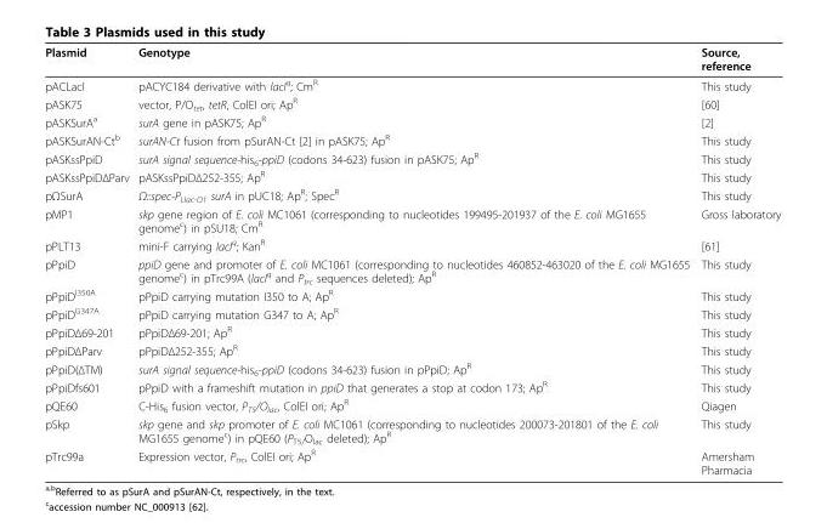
<table><thead><tr><td>Plasmid</td><td>Genotype</td><td>Source, reference</td></tr></thead><tbody><tr><td>pACLacI</td><td>pACYC184 derivative with lacI<sup>q</sup>; Cm<sup>R</sup></td><td>This study</td></tr><tr><td>pASK75</td><td>vector, P/O<sub>tet</sub>, tetR, ColEI ori; Ap<sup>R</sup></td><td>[60]</td></tr><tr><td>pASKSurA<sup>a</sup></td><td>surA gene in pASK75; Ap<sup>R</sup></td><td>[2]</td></tr><tr><td>pASKSurAN-Ct<sup>b</sup></td><td>surAN-Ct fusion from pSurAN-Ct [2] in pASK75; Ap<sup>R</sup></td><td>This study</td></tr><tr><td>pASKssPpiD</td><td>surA signal sequence-his<sub>6</sub>-ppiD (codons 34-623) fusion in pASK75; Ap<sup>R</sup></td><td>This study</td></tr><tr><td>pASKssPpiDΔParv</td><td>pASKssPpiDΔ252-355; Ap<sup>R</sup></td><td>This study</td></tr><tr><td>pΩSurA</td><td>Ω::spec-P<sub>Llac-O1</sub> surA in pUC18; Ap<sup>R</sup>; Spec<sup>R</sup></td><td>This study</td></tr><tr><td>pMP1</td><td>skp gene region of E. coli MC1061 (corresponding to nucleotides 199495-201937 of the E. coli MG1655 genome<sup>c</sup>) in pSU18; Cm<sup>R</sup></td><td>Gross laboratory</td></tr><tr><td>pPLT13</td><td>mini-F carrying lacI<sup>q</sup>; Kan<sup>R</sup></td><td>[61]</td></tr><tr><td>pPpiD</td><td>ppiD gene and promoter of E. coli MC1061 (corresponding to nucleotides 460852-463020 of the E. coli MG1655 genome<sup>c</sup>) in pTrc99A (lacI<sup>q</sup> and P<sub>trc</sub> sequences deleted); Ap<sup>R</sup></td><td>This study</td></tr><tr><td>pPpiD<sup>I350A</sup></td><td>pPpiD carrying mutation I350 to A; Ap<sup>R</sup></td><td>This study</td></tr><tr><td>pPpiD<sup>G347A</sup></td><td>pPpiD carrying mutation G347 to A; Ap<sup>R</sup></td><td>This study</td></tr><tr><td>pPpiDΔ69-201</td><td>pPpiDΔ69-201; Ap<sup>R</sup></td><td>This study</td></tr><tr><td>pPpiDΔParv</td><td>pPpiDΔ252-355; Ap<sup>R</sup></td><td>This study</td></tr><tr><td>pPpiD(ΔTM)</td><td>surA signal sequence-his<sub>6</sub>-ppiD (codons 34-623) fusion in pPpiD; Ap<sup>R</sup></td><td>This study</td></tr><tr><td>pPpiDfs601</td><td>pPpiD with a frameshift mutation in ppiD that generates a stop at codon 173; Ap<sup>R</sup></td><td>This study</td></tr><tr><td>pQE60</td><td>C-His<sub>6</sub> fusion vector, P<sub>T5</sub>/O<sub>lac</sub>, ColEI ori; Ap<sup>R</sup></td><td>Qiagen</td></tr><tr><td>pSkp</td><td>skp gene and skp promoter of E. coli MC1061 (corresponding to nucleotides 200073-201801 of the E. coli MG1655 genome<sup>c</sup>) in pQE60 (P<sub>T5/</sub>O<sub>lac</sub> deleted); Ap<sup>R</sup></td><td>This study</td></tr><tr><td>pTrc99a</td><td>Expression vector, P<sub>trc</sub>, ColEI ori; Ap<sup>R</sup></td><td>Amersham Pharmacia</td></tr></tbody></table>